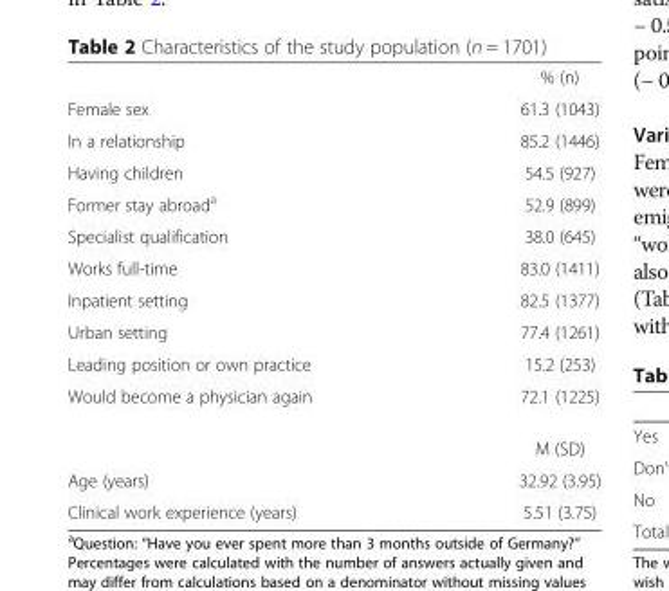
<table><thead><tr><td></td><td>% (n)</td></tr></thead><tbody><tr><td>Female sex</td><td>61.3 (1043)</td></tr><tr><td>In a relationship</td><td>85.2 (1446)</td></tr><tr><td>Having children</td><td>54.5 (927)</td></tr><tr><td>Former stay abroad<sup>a</sup></td><td>52.9 (899)</td></tr><tr><td>Specialist qualification</td><td>38.0 (645)</td></tr><tr><td>Works full-time</td><td>83.0 (1411)</td></tr><tr><td>Inpatient setting</td><td>82.5 (1377)</td></tr><tr><td>Urban setting</td><td>77.4 (1261)</td></tr><tr><td>Leading position or own practice</td><td>15.2 (253)</td></tr><tr><td rowspan="2">Would become a physician again</td><td>72.1 (1225)</td></tr><tr><td>M (SD)</td></tr><tr><td>Age (years)</td><td>32.92 (3.95)</td></tr><tr><td>Clinical work experience (years)</td><td>5.51 (3.75)</td></tr></tbody></table>